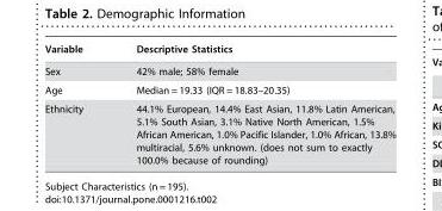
<table><thead><tr><td>Variable</td><td>Descriptive Statistics</td></tr></thead><tbody><tr><td>Sex</td><td>42% male; 58% female</td></tr><tr><td>Age</td><td>Median = 19.33 (IQR = 18.83–20.35)</td></tr><tr><td>Ethnicity</td><td>44.1% European, 14.4% East Asian, 11.8% Latin American, 5.1% South Asian, 3.1% Native North American, 1.5% African American, 1.0% Pacific Islander, 1.0% African, 13.8% multiracial, 5.6% unknown. (does not sum to exactly 100.0% because of rounding)</td></tr></tbody></table>